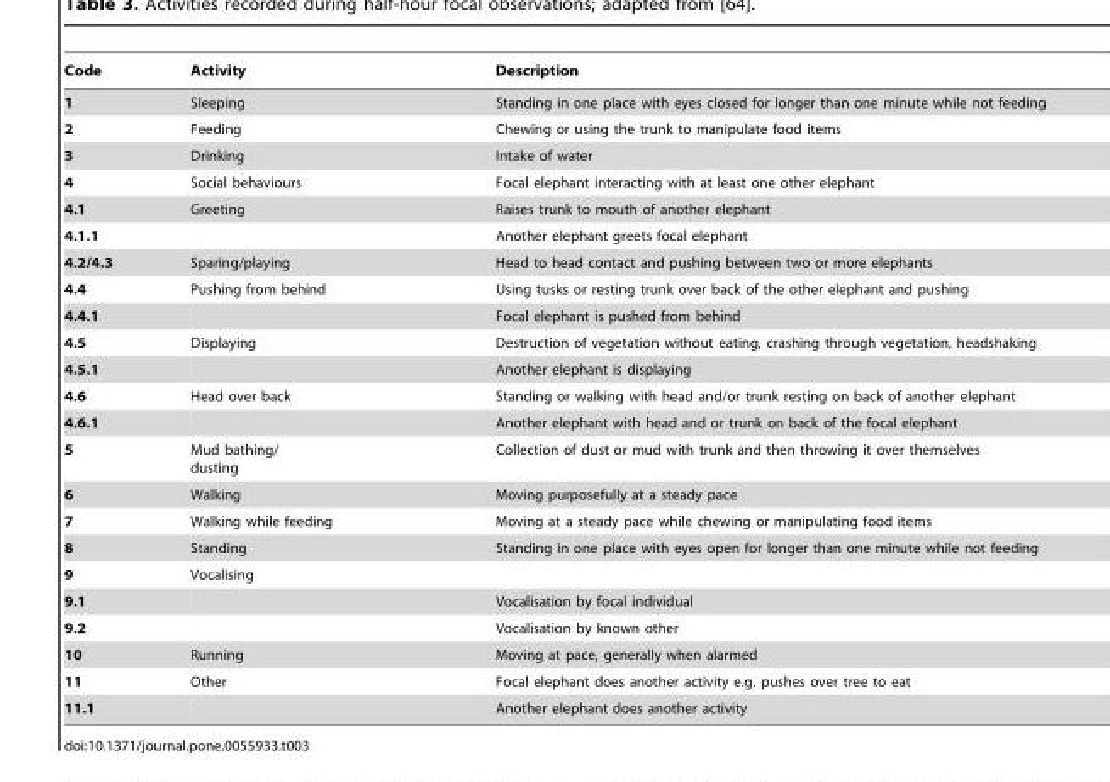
<table><thead><tr><td>Code</td><td>Activity</td><td>Description</td></tr></thead><tbody><tr><td>1</td><td>Sleeping</td><td>Standing in one place with eyes closed for longer than one minute while not feeding</td></tr><tr><td>2</td><td>Feeding</td><td>Chewing or using the trunk to manipulate food items</td></tr><tr><td>3</td><td>Drinking</td><td>Intake of water</td></tr><tr><td>4</td><td>Social behaviours</td><td>Focal elephant interacting with at least one other elephant</td></tr><tr><td>4.1</td><td>Greeting</td><td>Raises trunk to mouth of another elephant</td></tr><tr><td>4.1.1</td><td></td><td>Another elephant greets focal elephant</td></tr><tr><td>4.2/4.3</td><td>Sparing/playing</td><td>Head to head contact and pushing between two or more elephants</td></tr><tr><td>4.4</td><td>Pushing from behind</td><td>Using tusks or resting trunk over back of the other elephant and pushing</td></tr><tr><td>4.4.1</td><td></td><td>Focal elephant is pushed from behind</td></tr><tr><td>4.5</td><td>Displaying</td><td>Destruction of vegetation without eating, crashing through vegetation, headshaking</td></tr><tr><td>4.5.1</td><td></td><td>Another elephant is displaying</td></tr><tr><td>4.6</td><td>Head over back</td><td>Standing or walking with head and/or trunk resting on back of another elephant</td></tr><tr><td>4.6.1</td><td></td><td>Another elephant with head and or trunk on back of the focal elephant</td></tr><tr><td>5</td><td>Mud bathing/ dusting</td><td>Collection of dust or mud with trunk and then throwing it over themselves</td></tr><tr><td>6</td><td>Walking</td><td>Moving purposefully at a steady pace</td></tr><tr><td>7</td><td>Walking while feeding</td><td>Moving at a steady pace while chewing or manipulating food items</td></tr><tr><td>8</td><td>Standing</td><td>Standing in one place with eyes open for longer than one minute while not feeding</td></tr><tr><td>9</td><td>Vocalising</td><td></td></tr><tr><td>9.1</td><td></td><td>Vocalisation by focal individual</td></tr><tr><td>9.2</td><td></td><td>Vocalisation by known other</td></tr><tr><td>10</td><td>Running</td><td>Moving at pace, generally when alarmed</td></tr><tr><td>11</td><td>Other</td><td>Focal elephant does another activity e.g. pushes over tree to eat</td></tr><tr><td>11.1</td><td></td><td>Another elephant does another activity</td></tr></tbody></table>